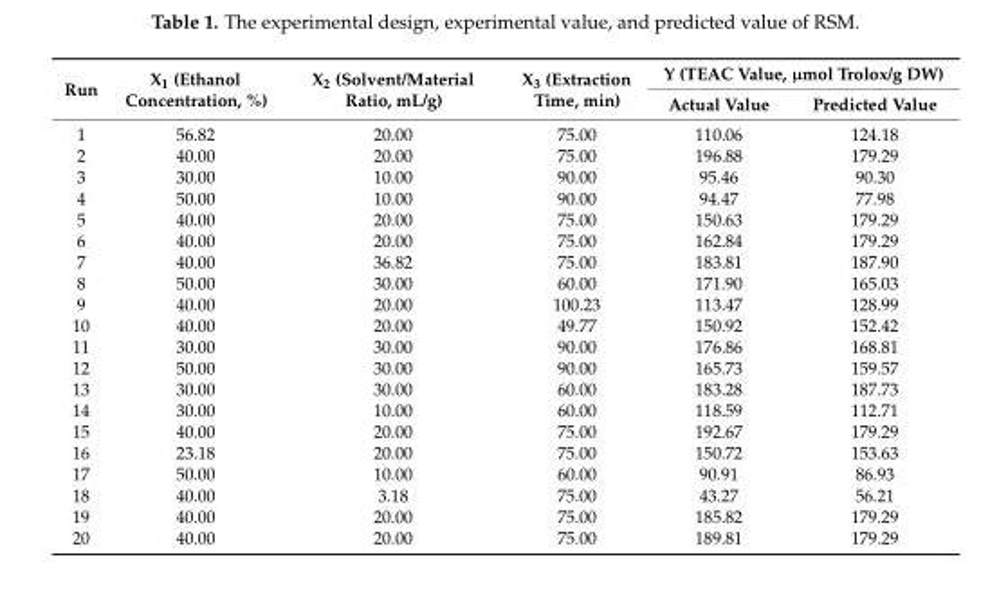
<table><thead><tr><td rowspan="2">Run</td><td rowspan="2">X<sub>1</sub> (Ethanol Concentration, %)</td><td rowspan="2">X<sub>2</sub> (Solvent/Material Ratio, mL/g)</td><td rowspan="2">X<sub>3</sub> (Extraction Time, min)</td><td colspan="2">Y (TEAC Value, µmol Trolox/g DW)</td></tr><tr><td>Actual Value</td><td>Predicted Value</td></tr></thead><tbody><tr><td>1</td><td>56.82</td><td>20.00</td><td>75.00</td><td>110.06</td><td>124.18</td></tr><tr><td>2</td><td>40.00</td><td>20.00</td><td>75.00</td><td>196.88</td><td>179.29</td></tr><tr><td>3</td><td>30.00</td><td>10.00</td><td>90.00</td><td>95.46</td><td>90.30</td></tr><tr><td>4</td><td>50.00</td><td>10.00</td><td>90.00</td><td>94.47</td><td>77.98</td></tr><tr><td>5</td><td>40.00</td><td>20.00</td><td>75.00</td><td>150.63</td><td>179.29</td></tr><tr><td>6</td><td>40.00</td><td>20.00</td><td>75.00</td><td>162.84</td><td>179.29</td></tr><tr><td>7</td><td>40.00</td><td>36.82</td><td>75.00</td><td>183.81</td><td>187.90</td></tr><tr><td>8</td><td>50.00</td><td>30.00</td><td>60.00</td><td>171.90</td><td>165.03</td></tr><tr><td>9</td><td>40.00</td><td>20.00</td><td>100.23</td><td>113.47</td><td>128.99</td></tr><tr><td>10</td><td>40.00</td><td>20.00</td><td>49.77</td><td>150.92</td><td>152.42</td></tr><tr><td>11</td><td>30.00</td><td>30.00</td><td>90.00</td><td>176.86</td><td>168.81</td></tr><tr><td>12</td><td>50.00</td><td>30.00</td><td>90.00</td><td>165.73</td><td>159.57</td></tr><tr><td>13</td><td>30.00</td><td>30.00</td><td>60.00</td><td>183.28</td><td>187.73</td></tr><tr><td>14</td><td>30.00</td><td>10.00</td><td>60.00</td><td>118.59</td><td>112.71</td></tr><tr><td>15</td><td>40.00</td><td>20.00</td><td>75.00</td><td>192.67</td><td>179.29</td></tr><tr><td>16</td><td>23.18</td><td>20.00</td><td>75.00</td><td>150.72</td><td>153.63</td></tr><tr><td>17</td><td>50.00</td><td>10.00</td><td>60.00</td><td>90.91</td><td>86.93</td></tr><tr><td>18</td><td>40.00</td><td>3.18</td><td>75.00</td><td>43.27</td><td>56.21</td></tr><tr><td>19</td><td>40.00</td><td>20.00</td><td>75.00</td><td>185.82</td><td>179.29</td></tr><tr><td>20</td><td>40.00</td><td>20.00</td><td>75.00</td><td>189.81</td><td>179.29</td></tr></tbody></table>